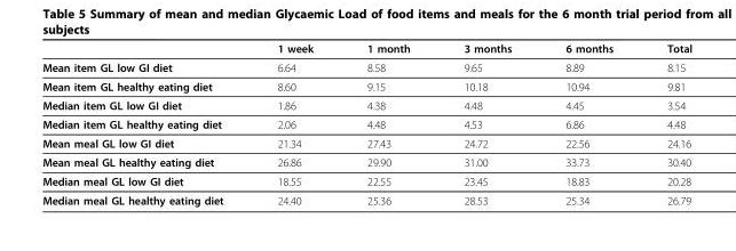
<table><thead><tr><td></td><td>1 week</td><td>1 month</td><td>3 months</td><td>6 months</td><td>Total</td></tr></thead><tbody><tr><td>Mean item GL low GI diet</td><td>6.64</td><td>8.58</td><td>9.65</td><td>8.89</td><td>8.15</td></tr><tr><td>Mean item GL healthy eating diet</td><td>8.60</td><td>9.15</td><td>10.18</td><td>10.94</td><td>9.81</td></tr><tr><td>Median item GL low GI diet</td><td>1.86</td><td>4.38</td><td>4.48</td><td>4.45</td><td>3.54</td></tr><tr><td>Median item GL healthy eating diet</td><td>2.06</td><td>4.48</td><td>4.53</td><td>6.86</td><td>4.48</td></tr><tr><td>Mean meal GL low GI diet</td><td>21.34</td><td>27.43</td><td>24.72</td><td>22.56</td><td>24.16</td></tr><tr><td>Mean meal GL healthy eating diet</td><td>26.86</td><td>29.90</td><td>31.00</td><td>33.73</td><td>30.40</td></tr><tr><td>Median meal GL low GI diet</td><td>18.55</td><td>22.55</td><td>23.45</td><td>18.83</td><td>20.28</td></tr><tr><td>Median meal GL healthy eating diet</td><td>24.40</td><td>25.36</td><td>28.53</td><td>25.34</td><td>26.79</td></tr></tbody></table>